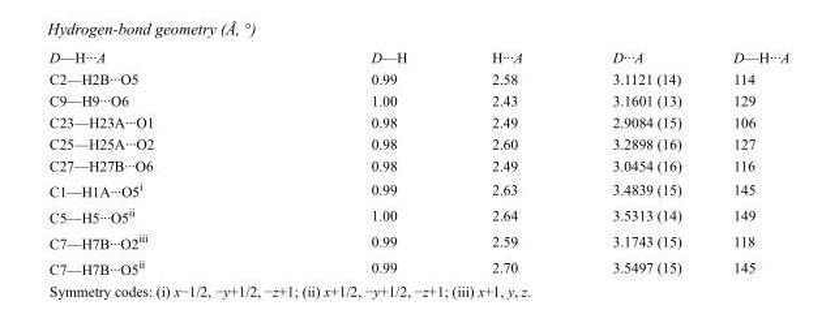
<table><tbody><tr><td>D—H···A</td><td>D—H</td><td>H···A</td><td>D···A</td><td>D—H···A</td></tr><tr><td>C2—H2B···O5</td><td>0.99</td><td>2.58</td><td>3.1121 (14)</td><td>114</td></tr><tr><td>C9—H9···O6</td><td>1.00</td><td>2.43</td><td>3.1601 (13)</td><td>129</td></tr><tr><td>C23—H23A···O1</td><td>0.98</td><td>2.49</td><td>2.9084 (15)</td><td>106</td></tr><tr><td>C25—H25A···O2</td><td>0.98</td><td>2.60</td><td>3.2898 (16)</td><td>127</td></tr><tr><td>C27—H27B···O6</td><td>0.98</td><td>2.49</td><td>3.0454 (16)</td><td>116</td></tr><tr><td>C1—H1A···O5<sup>i</sup></td><td>0.99</td><td>2.63</td><td>3.4839 (15)</td><td>145</td></tr><tr><td>C5—H5···O5<sup>ii</sup></td><td>1.00</td><td>2.64</td><td>3.5313 (14)</td><td>149</td></tr><tr><td>C7—H7B···O2<sup>iii</sup></td><td>0.99</td><td>2.59</td><td>3.1743 (15)</td><td>118</td></tr><tr><td>C7—H7B···O5<sup>ii</sup></td><td>0.99</td><td>2.70</td><td>3.5497 (15)</td><td>145</td></tr></tbody></table>